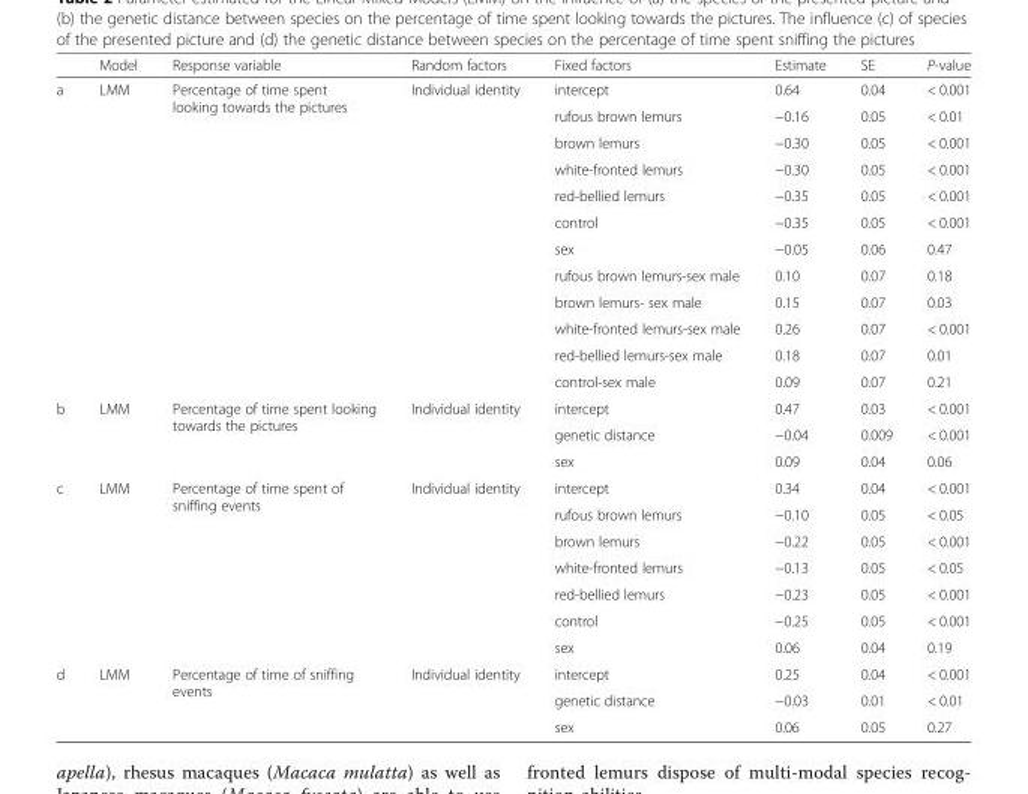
<table><thead><tr><td></td><td>Model</td><td>Response variable</td><td>Random factors</td><td>Fixed factors</td><td>Estimate</td><td>SE</td><td>P-value</td></tr></thead><tbody><tr><td rowspan="12">a</td><td rowspan="12">LMM</td><td rowspan="12">Percentage of time spent looking towards the pictures</td><td rowspan="12">Individual identity</td><td>intercept</td><td>0.64</td><td>0.04</td><td>&lt; 0.001</td></tr><tr><td>rufous brown lemurs</td><td>−0.16</td><td>0.05</td><td>&lt; 0.01</td></tr><tr><td>brown lemurs</td><td>−0.30</td><td>0.05</td><td>&lt; 0.001</td></tr><tr><td>white-fronted lemurs</td><td>−0.30</td><td>0.05</td><td>&lt; 0.001</td></tr><tr><td>red-bellied lemurs</td><td>−0.35</td><td>0.05</td><td>&lt; 0.001</td></tr><tr><td>control</td><td>−0.35</td><td>0.05</td><td>&lt; 0.001</td></tr><tr><td>sex</td><td>−0.05</td><td>0.06</td><td>0.47</td></tr><tr><td>rufous brown lemurs-sex male</td><td>0.10</td><td>0.07</td><td>0.18</td></tr><tr><td>brown lemurs- sex male</td><td>0.15</td><td>0.07</td><td>0.03</td></tr><tr><td>white-fronted lemurs-sex male</td><td>0.26</td><td>0.07</td><td>&lt; 0.001</td></tr><tr><td>red-bellied lemurs-sex male</td><td>0.18</td><td>0.07</td><td>0.01</td></tr><tr><td>control-sex male</td><td>0.09</td><td>0.07</td><td>0.21</td></tr><tr><td rowspan="3">b</td><td rowspan="3">LMM</td><td rowspan="3">Percentage of time spent looking towards the pictures</td><td rowspan="3">Individual identity</td><td>intercept</td><td>0.47</td><td>0.03</td><td>&lt; 0.001</td></tr><tr><td>genetic distance</td><td>−0.04</td><td>0.009</td><td>&lt; 0.001</td></tr><tr><td>sex</td><td>0.09</td><td>0.04</td><td>0.06</td></tr><tr><td rowspan="7">c</td><td rowspan="7">LMM</td><td rowspan="7">Percentage of time spent of sniffing events</td><td rowspan="7">Individual identity</td><td>intercept</td><td>0.34</td><td>0.04</td><td>&lt; 0.001</td></tr><tr><td>rufous brown lemurs</td><td>−0.10</td><td>0.05</td><td>&lt; 0.05</td></tr><tr><td>brown lemurs</td><td>−0.22</td><td>0.05</td><td>&lt; 0.001</td></tr><tr><td>white-fronted lemurs</td><td>−0.13</td><td>0.05</td><td>&lt; 0.05</td></tr><tr><td>red-bellied lemurs</td><td>−0.23</td><td>0.05</td><td>&lt; 0.001</td></tr><tr><td>control</td><td>−0.25</td><td>0.05</td><td>&lt; 0.001</td></tr><tr><td>sex</td><td>0.06</td><td>0.04</td><td>0.19</td></tr><tr><td rowspan="3">d</td><td rowspan="3">LMM</td><td rowspan="3">Percentage of time of sniffing events</td><td rowspan="3">Individual identity</td><td>intercept</td><td>0.25</td><td>0.04</td><td>&lt; 0.001</td></tr><tr><td>genetic distance</td><td>−0.03</td><td>0.01</td><td>&lt; 0.01</td></tr><tr><td>sex</td><td>0.06</td><td>0.05</td><td>0.27</td></tr></tbody></table>